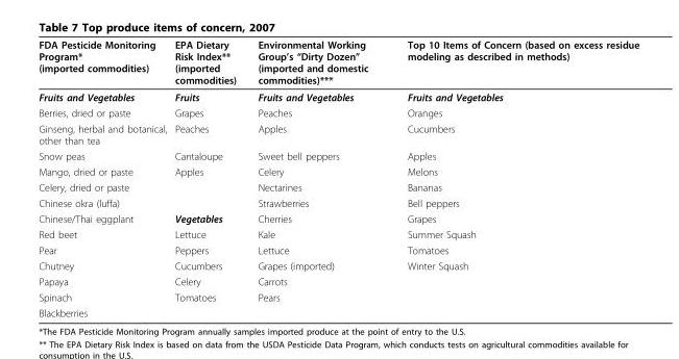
<table><thead><tr><td>FDA Pesticide Monitoring Program* (imported commodities)</td><td>EPA Dietary Risk Index** (imported commodities)</td><td>Environmental Working Group’s “Dirty Dozen” (imported and domestic commodities)***</td><td>Top 10 Items of Concern (based on excess residue modeling as described in methods)</td></tr></thead><tbody><tr><td>Fruits and Vegetables</td><td>Fruits</td><td>Fruits and Vegetables</td><td>Fruits and Vegetables</td></tr><tr><td>Berries, dried or paste</td><td>Grapes</td><td>Peaches</td><td>Oranges</td></tr><tr><td>Ginseng, herbal and botanical, other than tea</td><td>Peaches</td><td>Apples</td><td>Cucumbers</td></tr><tr><td>Snow peas</td><td>Cantaloupe</td><td>Sweet bell peppers</td><td>Apples</td></tr><tr><td>Mango, dried or paste</td><td>Apples</td><td>Celery</td><td>Melons</td></tr><tr><td>Celery, dried or paste</td><td></td><td>Nectarines</td><td>Bananas</td></tr><tr><td>Chinese okra (luffa)</td><td></td><td>Strawberries</td><td>Bell peppers</td></tr><tr><td>Chinese/Thai eggplant</td><td>Vegetables</td><td>Cherries</td><td>Grapes</td></tr><tr><td>Red beet</td><td>Lettuce</td><td>Kale</td><td>Summer Squash</td></tr><tr><td>Pear</td><td>Peppers</td><td>Lettuce</td><td>Tomatoes</td></tr><tr><td>Chutney</td><td>Cucumbers</td><td>Grapes (imported)</td><td>Winter Squash</td></tr><tr><td>Papaya</td><td>Celery</td><td>Carrots</td><td></td></tr><tr><td>Spinach</td><td>Tomatoes</td><td>Pears</td><td></td></tr><tr><td>Blackberries</td><td></td><td></td><td></td></tr></tbody></table>